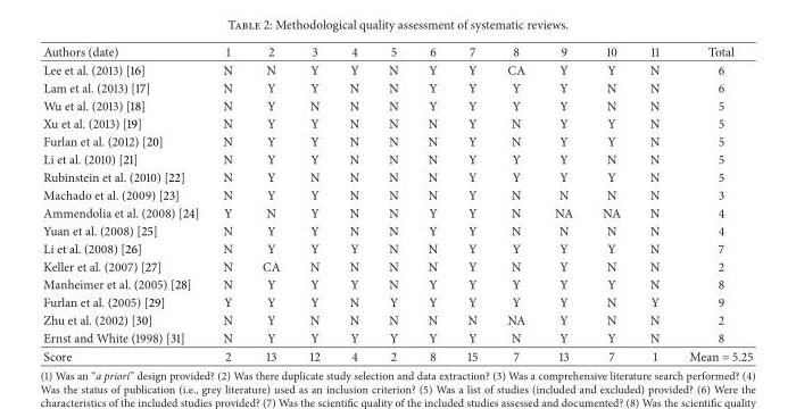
<table><thead><tr><td>Authors (date)</td><td>1</td><td>2</td><td>3</td><td>4</td><td>5</td><td>6</td><td>7</td><td>8</td><td>9</td><td>10</td><td>11</td><td>Total</td></tr></thead><tbody><tr><td>Lee et al. (2013) [16]</td><td>N</td><td>N</td><td>Y</td><td>Y</td><td>N</td><td>Y</td><td>Y</td><td>CA</td><td>Y</td><td>Y</td><td>N</td><td>6</td></tr><tr><td>Lam et al. (2013) [17]</td><td>N</td><td>Y</td><td>Y</td><td>N</td><td>N</td><td>Y</td><td>Y</td><td>Y</td><td>Y</td><td>N</td><td>N</td><td>6</td></tr><tr><td>Wu et al. (2013) [18]</td><td>N</td><td>Y</td><td>N</td><td>N</td><td>N</td><td>Y</td><td>Y</td><td>Y</td><td>Y</td><td>N</td><td>N</td><td>5</td></tr><tr><td>Xu et al. (2013) [19]</td><td>N</td><td>Y</td><td>Y</td><td>N</td><td>N</td><td>N</td><td>Y</td><td>N</td><td>Y</td><td>Y</td><td>N</td><td>5</td></tr><tr><td>Furlan et al. (2012) [20]</td><td>N</td><td>Y</td><td>Y</td><td>N</td><td>N</td><td>N</td><td>Y</td><td>N</td><td>Y</td><td>Y</td><td>N</td><td>5</td></tr><tr><td>Li et al. (2010) [21]</td><td>N</td><td>Y</td><td>Y</td><td>N</td><td>N</td><td>N</td><td>Y</td><td>Y</td><td>Y</td><td>N</td><td>N</td><td>5</td></tr><tr><td>Rubinstein et al. (2010) [22]</td><td>N</td><td>Y</td><td>N</td><td>N</td><td>N</td><td>N</td><td>Y</td><td>Y</td><td>Y</td><td>Y</td><td>N</td><td>5</td></tr><tr><td>Machado et al. (2009) [23]</td><td>N</td><td>Y</td><td>Y</td><td>N</td><td>N</td><td>N</td><td>Y</td><td>N</td><td>N</td><td>N</td><td>N</td><td>3</td></tr><tr><td>Ammendolia et al. (2008) [24]</td><td>Y</td><td>N</td><td>Y</td><td>N</td><td>N</td><td>Y</td><td>Y</td><td>N</td><td>NA</td><td>NA</td><td>N</td><td>4</td></tr><tr><td>Yuan et al. (2008) [25]</td><td>N</td><td>Y</td><td>Y</td><td>N</td><td>N</td><td>Y</td><td>Y</td><td>N</td><td>N</td><td>N</td><td>N</td><td>4</td></tr><tr><td>Li et al. (2008) [26]</td><td>N</td><td>Y</td><td>Y</td><td>Y</td><td>N</td><td>N</td><td>Y</td><td>Y</td><td>Y</td><td>Y</td><td>N</td><td>7</td></tr><tr><td>Keller et al. (2007) [27]</td><td>N</td><td>CA</td><td>N</td><td>N</td><td>N</td><td>N</td><td>Y</td><td>N</td><td>Y</td><td>N</td><td>N</td><td>2</td></tr><tr><td>Manheimer et al. (2005) [28]</td><td>N</td><td>Y</td><td>Y</td><td>Y</td><td>N</td><td>Y</td><td>Y</td><td>Y</td><td>Y</td><td>Y</td><td>N</td><td>8</td></tr><tr><td>Furlan et al. (2005) [29]</td><td>Y</td><td>Y</td><td>Y</td><td>N</td><td>Y</td><td>Y</td><td>Y</td><td>Y</td><td>Y</td><td>N</td><td>Y</td><td>9</td></tr><tr><td>Zhu et al. (2002) [30]</td><td>N</td><td>Y</td><td>N</td><td>N</td><td>N</td><td>N</td><td>N</td><td>NA</td><td>Y</td><td>N</td><td>N</td><td>2</td></tr><tr><td>Ernst and White (1998) [31]</td><td>N</td><td>Y</td><td>Y</td><td>Y</td><td>Y</td><td>Y</td><td>Y</td><td>N</td><td>Y</td><td>Y</td><td>N</td><td>8</td></tr><tr><td>Score</td><td>2</td><td>13</td><td>12</td><td>4</td><td>2</td><td>8</td><td>15</td><td>7</td><td>13</td><td>7</td><td>1</td><td>Mean = 5.25</td></tr></tbody></table>